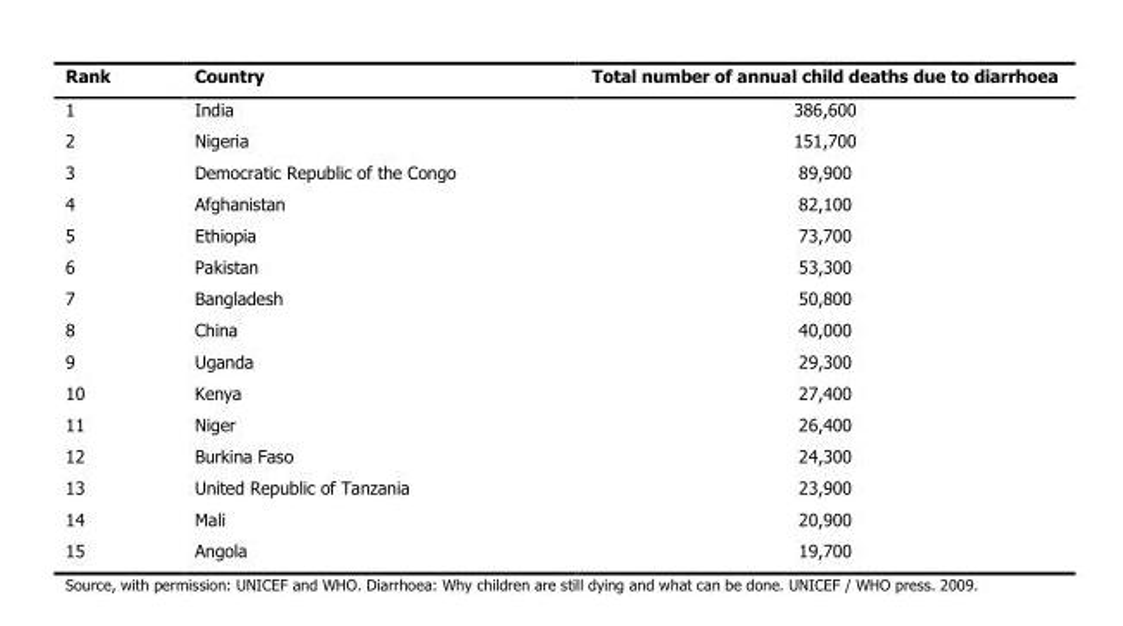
<table><thead><tr><td>Rank</td><td>Country</td><td>Total number of annual child deaths due to diarrhoea</td></tr></thead><tbody><tr><td>1</td><td>India</td><td>386,600</td></tr><tr><td>2</td><td>Nigeria</td><td>151,700</td></tr><tr><td>3</td><td>Democratic Republic of the Congo</td><td>89,900</td></tr><tr><td>4</td><td>Afghanistan</td><td>82,100</td></tr><tr><td>5</td><td>Ethiopia</td><td>73,700</td></tr><tr><td>6</td><td>Pakistan</td><td>53,300</td></tr><tr><td>7</td><td>Bangladesh</td><td>50,800</td></tr><tr><td>8</td><td>China</td><td>40,000</td></tr><tr><td>9</td><td>Uganda</td><td>29,300</td></tr><tr><td>10</td><td>Kenya</td><td>27,400</td></tr><tr><td>11</td><td>Niger</td><td>26,400</td></tr><tr><td>12</td><td>Burkina Faso</td><td>24,300</td></tr><tr><td>13</td><td>United Republic of Tanzania</td><td>23,900</td></tr><tr><td>14</td><td>Mali</td><td>20,900</td></tr><tr><td>15</td><td>Angola</td><td>19,700</td></tr></tbody></table>